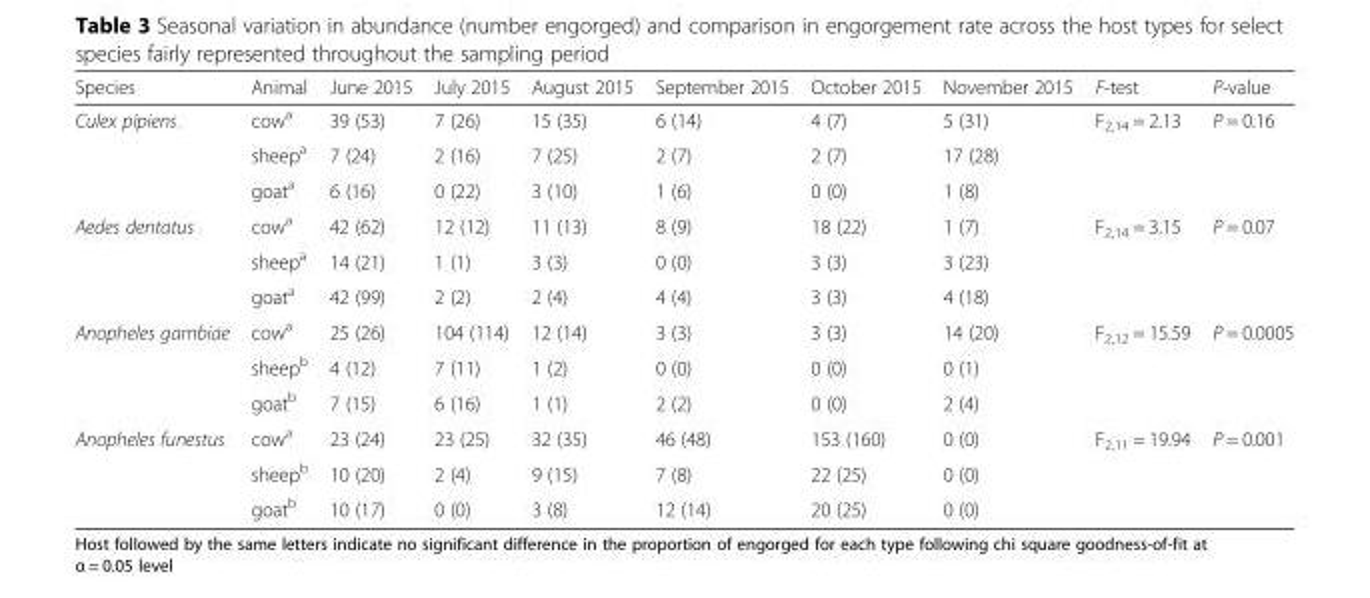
<table><thead><tr><td>Species</td><td>Animal</td><td>June 2015</td><td>July 2015</td><td>August 2015</td><td>September 2015</td><td>October 2015</td><td>November 2015</td><td>F-test</td><td>P-value</td></tr></thead><tbody><tr><td rowspan="3">Culex pipiens</td><td>cow<sup>a</sup></td><td>39 (53)</td><td>7 (26)</td><td>15 (35)</td><td>6 (14)</td><td>4 (7)</td><td>5 (31)</td><td>F<sub>2,14</sub> = 2.13</td><td>P = 0.16</td></tr><tr><td>sheep<sup>a</sup></td><td>7 (24)</td><td>2 (16)</td><td>7 (25)</td><td>2 (7)</td><td>2 (7)</td><td>17 (28)</td><td></td><td></td></tr><tr><td>goat<sup>a</sup></td><td>6 (16)</td><td>0 (22)</td><td>3 (10)</td><td>1 (6)</td><td>0 (0)</td><td>1 (8)</td><td></td><td></td></tr><tr><td rowspan="3">Aedes dentatus</td><td>cow<sup>a</sup></td><td>42 (62)</td><td>12 (12)</td><td>11 (13)</td><td>8 (9)</td><td>18 (22)</td><td>1 (7)</td><td>F<sub>2,14</sub> = 3.15</td><td>P = 0.07</td></tr><tr><td>sheep<sup>a</sup></td><td>14 (21)</td><td>1 (1)</td><td>3 (3)</td><td>0 (0)</td><td>3 (3)</td><td>3 (23)</td><td></td><td></td></tr><tr><td>goat<sup>a</sup></td><td>42 (99)</td><td>2 (2)</td><td>2 (4)</td><td>4 (4)</td><td>3 (3)</td><td>4 (18)</td><td></td><td></td></tr><tr><td rowspan="3">Anopheles gambiae</td><td>cow<sup>a</sup></td><td>25 (26)</td><td>104 (114)</td><td>12 (14)</td><td>3 (3)</td><td>3 (3)</td><td>14 (20)</td><td>F<sub>2,12</sub> = 15.59</td><td>P = 0.0005</td></tr><tr><td>sheep<sup>b</sup></td><td>4 (12)</td><td>7 (11)</td><td>1 (2)</td><td>0 (0)</td><td>0 (0)</td><td>0 (1)</td><td></td><td></td></tr><tr><td>goat<sup>b</sup></td><td>7 (15)</td><td>6 (16)</td><td>1 (1)</td><td>2 (2)</td><td>0 (0)</td><td>2 (4)</td><td></td><td></td></tr><tr><td rowspan="3">Anopheles funestus</td><td>cow<sup>a</sup></td><td>23 (24)</td><td>23 (25)</td><td>32 (35)</td><td>46 (48)</td><td>153 (160)</td><td>0 (0)</td><td>F<sub>2,11</sub> = 19.94</td><td>P = 0.001</td></tr><tr><td>sheep<sup>b</sup></td><td>10 (20)</td><td>2 (4)</td><td>9 (15)</td><td>7 (8)</td><td>22 (25)</td><td>0 (0)</td><td></td><td></td></tr><tr><td>goat<sup>b</sup></td><td>10 (17)</td><td>0 (0)</td><td>3 (8)</td><td>12 (14)</td><td>20 (25)</td><td>0 (0)</td><td></td><td></td></tr></tbody></table>